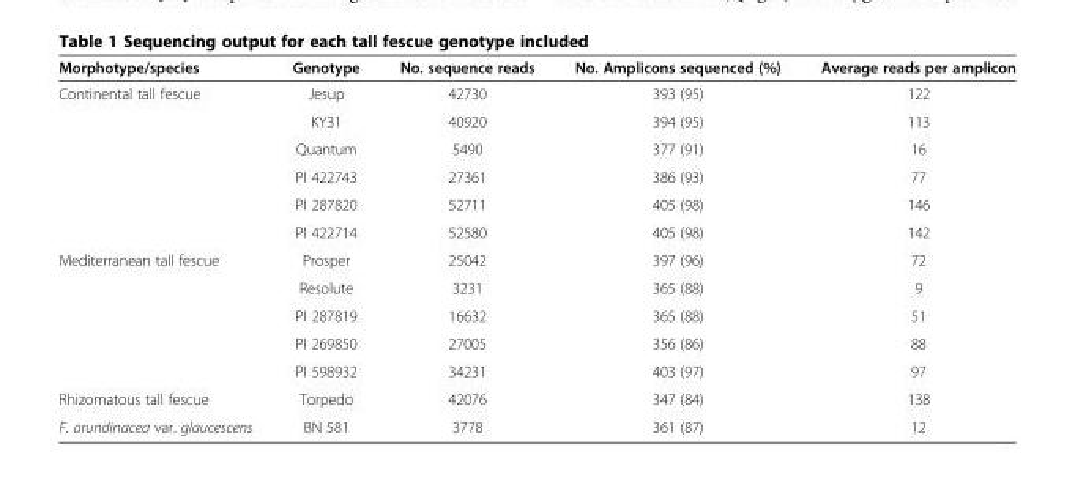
<table><thead><tr><td>Morphotype/species</td><td>Genotype</td><td>No. sequence reads</td><td>No. Amplicons sequenced (%)</td><td>Average reads per amplicon</td></tr></thead><tbody><tr><td rowspan="6">Continental tall fescue</td><td>Jesup</td><td>42730</td><td>393 (95)</td><td>122</td></tr><tr><td>KY31</td><td>40920</td><td>394 (95)</td><td>113</td></tr><tr><td>Quantum</td><td>5490</td><td>377 (91)</td><td>16</td></tr><tr><td>PI 422743</td><td>27361</td><td>386 (93)</td><td>77</td></tr><tr><td>PI 287820</td><td>52711</td><td>405 (98)</td><td>146</td></tr><tr><td>PI 422714</td><td>52580</td><td>405 (98)</td><td>142</td></tr><tr><td rowspan="5">Mediterranean tall fescue</td><td>Prosper</td><td>25042</td><td>397 (96)</td><td>72</td></tr><tr><td>Resolute</td><td>3231</td><td>365 (88)</td><td>9</td></tr><tr><td>PI 287819</td><td>16632</td><td>365 (88)</td><td>51</td></tr><tr><td>PI 269850</td><td>27005</td><td>356 (86)</td><td>88</td></tr><tr><td>PI 598932</td><td>34231</td><td>403 (97)</td><td>97</td></tr><tr><td>Rhizomatous tall fescue</td><td>Torpedo</td><td>42076</td><td>347 (84)</td><td>138</td></tr><tr><td>F. arundinacea var. glaucescens</td><td>BN 581</td><td>3778</td><td>361 (87)</td><td>12</td></tr></tbody></table>